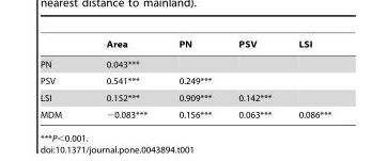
<table><thead><tr><td></td><td>Area</td><td>PN</td><td>PSV</td><td>LSI</td></tr></thead><tbody><tr><td>PN</td><td>0.043***</td><td></td><td></td><td></td></tr><tr><td>PSV</td><td>0.541***</td><td>0.249***</td><td></td><td></td></tr><tr><td>LSI</td><td>0.152***</td><td>0.909***</td><td>0.142***</td><td></td></tr><tr><td>MDM</td><td>−0.083***</td><td>0.156***</td><td>0.063***</td><td>0.086***</td></tr></tbody></table>